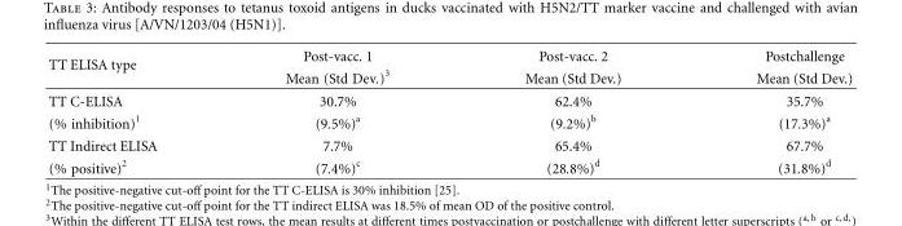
<table><thead><tr><td rowspan="2">TT ELISA type</td><td rowspan="2">Post-vacc. 1 Mean (Std Dev.)<sup>3</sup></td><td rowspan="2">Post-vacc. 2 Mean (Std Dev.)</td><td rowspan="2">Postchallenge Mean (Std Dev.)</td></tr><tr></tr></thead><tbody><tr><td>TT C-ELISA</td><td>30.7%</td><td>62.4%</td><td>35.7%</td></tr><tr><td>(% inhibition)<sup>1</sup></td><td>(9.5%)<sup>a</sup></td><td>(9.2%)<sup>b</sup></td><td>(17.3%)<sup>a</sup></td></tr><tr><td>TT Indirect ELISA</td><td>7.7%</td><td>65.4%</td><td>67.7%</td></tr><tr><td>(% positive)<sup>2</sup></td><td>(7.4%)<sup>c</sup></td><td>(28.8%)<sup>d</sup></td><td>(31.8%)<sup>d</sup></td></tr></tbody></table>